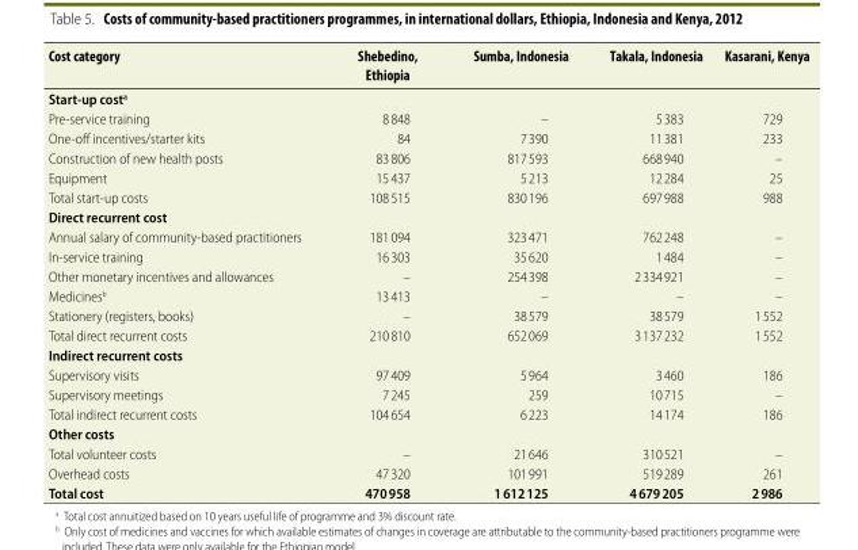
<table><thead><tr><td>Cost category</td><td>Shebedino, Ethiopia</td><td>Sumba, Indonesia</td><td>Takala, Indonesia</td><td>Kasarani, Kenya</td></tr></thead><tbody><tr><td colspan="5">Start-up cost<sup>a</sup></td></tr><tr><td>Pre-service training</td><td>8 848</td><td>–</td><td>5 383</td><td>729</td></tr><tr><td>One-off incentives/starter kits</td><td>84</td><td>7 390</td><td>11 381</td><td>233</td></tr><tr><td>Construction of new health posts</td><td>83 806</td><td>817 593</td><td>668 940</td><td>–</td></tr><tr><td>Equipment</td><td>15 437</td><td>5 213</td><td>12 284</td><td>25</td></tr><tr><td>Total start-up costs</td><td>108 515</td><td>830 196</td><td>697 988</td><td>988</td></tr><tr><td colspan="5">Direct recurrent cost</td></tr><tr><td>Annual salary of community-based practitioners</td><td>181 094</td><td>323 471</td><td>762 248</td><td>–</td></tr><tr><td>In-service training</td><td>16 303</td><td>35 620</td><td>1 484</td><td>–</td></tr><tr><td>Other monetary incentives and allowances</td><td>–</td><td>254 398</td><td>2 334 921</td><td>–</td></tr><tr><td>Medicines<sup>b</sup></td><td>13 413</td><td>–</td><td>–</td><td>–</td></tr><tr><td>Stationery (registers, books)</td><td>–</td><td>38 579</td><td>38 579</td><td>1 552</td></tr><tr><td>Total direct recurrent costs</td><td>210 810</td><td>652 069</td><td>3 137 232</td><td>1 552</td></tr><tr><td colspan="5">Indirect recurrent costs</td></tr><tr><td>Supervisory visits</td><td>97 409</td><td>5 964</td><td>3 460</td><td>186</td></tr><tr><td>Supervisory meetings</td><td>7 245</td><td>259</td><td>10 715</td><td>–</td></tr><tr><td>Total indirect recurrent costs</td><td>104 654</td><td>6 223</td><td>14 174</td><td>186</td></tr><tr><td colspan="5">Other costs</td></tr><tr><td>Total volunteer costs</td><td>–</td><td>21 646</td><td>310 521</td><td>–</td></tr><tr><td>Overhead costs</td><td>47 320</td><td>101 991</td><td>519 289</td><td>261</td></tr><tr><td>Total cost</td><td>470 958</td><td>1 612 125</td><td>4 679 205</td><td>2 986</td></tr></tbody></table>